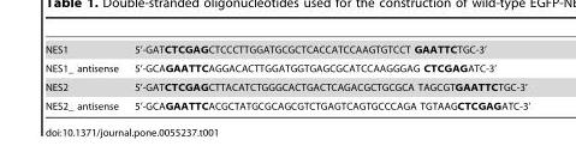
<table><tbody><tr><td>NES1</td><td>5’-GATCTCGAGCTCCCTTGGATGCGCTCACCATCCAAGTGTCCT GAATTCTGC-3’</td></tr><tr><td>NES1_ antisense</td><td>5’-GCAGAATTCAGGACACTTGGATGGTGAGCGCATCCAAGGGAG CTCGAGATC-3’</td></tr><tr><td>NES2</td><td>5’-GATCTCGAGCTTACATCTGGGCACTGACTCAGACGCTGCGCA TAGCGTGAATTCTGC-3’</td></tr><tr><td>NES2_ antisense</td><td>5’-GCAGAATTCACGCTATGCGCAGCGTCTGAGTCAGTGCCCAGA TGTAAGCTCGAGATC-3’</td></tr></tbody></table>